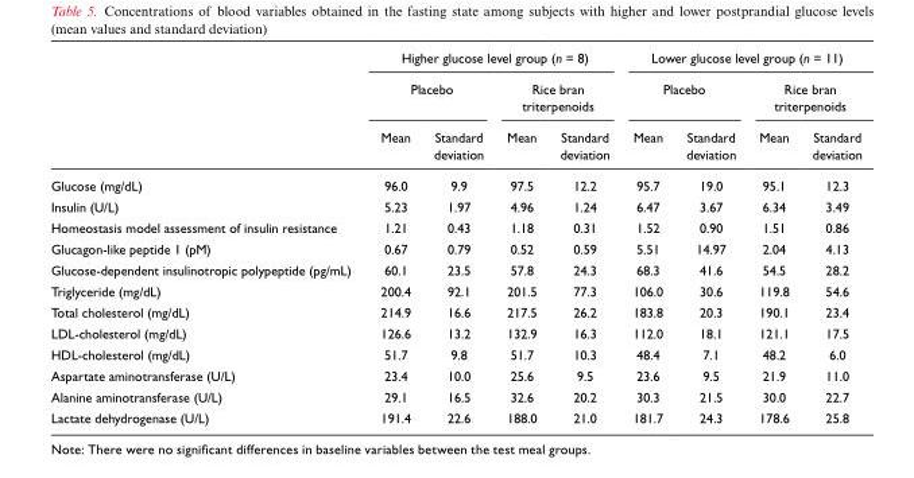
<table><thead><tr><td rowspan="3"></td><td colspan="4">Higher glucose level group (n = 8)</td><td colspan="4">Lower glucose level group (n = 11)</td></tr><tr><td colspan="2">Placebo</td><td colspan="2">Rice bran triterpenoids</td><td colspan="2">Placebo</td><td colspan="2">Rice bran triterpenoids</td></tr><tr><td>Mean</td><td>Standard deviation</td><td>Mean</td><td>Standard deviation</td><td>Mean</td><td>Standard deviation</td><td>Mean</td><td>Standard deviation</td></tr></thead><tbody><tr><td>Glucose (mg/dL)</td><td>96.0</td><td>9.9</td><td>97.5</td><td>12.2</td><td>95.7</td><td>19.0</td><td>95.1</td><td>12.3</td></tr><tr><td>Insulin (U/L)</td><td>5.23</td><td>1.97</td><td>4.96</td><td>1.24</td><td>6.47</td><td>3.67</td><td>6.34</td><td>3.49</td></tr><tr><td>Homeostasis model assessment of insulin resistance</td><td>1.21</td><td>0.43</td><td>1.18</td><td>0.31</td><td>1.52</td><td>0.90</td><td>1.51</td><td>0.86</td></tr><tr><td>Glucagon-like peptide 1 (pM)</td><td>0.67</td><td>0.79</td><td>0.52</td><td>0.59</td><td>5.51</td><td>14.97</td><td>2.04</td><td>4.13</td></tr><tr><td>Glucose-dependent insulinotropic polypeptide (pg/mL)</td><td>60.1</td><td>23.5</td><td>57.8</td><td>24.3</td><td>68.3</td><td>41.6</td><td>54.5</td><td>28.2</td></tr><tr><td>Triglyceride (mg/dL)</td><td>200.4</td><td>92.1</td><td>201.5</td><td>77.3</td><td>106.0</td><td>30.6</td><td>119.8</td><td>54.6</td></tr><tr><td>Total cholesterol (mg/dL)</td><td>214.9</td><td>16.6</td><td>217.5</td><td>26.2</td><td>183.8</td><td>20.3</td><td>190.1</td><td>23.4</td></tr><tr><td>LDL-cholesterol (mg/dL)</td><td>126.6</td><td>13.2</td><td>132.9</td><td>16.3</td><td>112.0</td><td>18.1</td><td>121.1</td><td>17.5</td></tr><tr><td>HDL-cholesterol (mg/dL)</td><td>51.7</td><td>9.8</td><td>51.7</td><td>10.3</td><td>48.4</td><td>7.1</td><td>48.2</td><td>6.0</td></tr><tr><td>Aspartate aminotransferase (U/L)</td><td>23.4</td><td>10.0</td><td>25.6</td><td>9.5</td><td>23.6</td><td>9.5</td><td>21.9</td><td>11.0</td></tr><tr><td>Alanine aminotransferase (U/L)</td><td>29.1</td><td>16.5</td><td>32.6</td><td>20.2</td><td>30.3</td><td>21.5</td><td>30.0</td><td>22.7</td></tr><tr><td>Lactate dehydrogenase (U/L)</td><td>191.4</td><td>22.6</td><td>188.0</td><td>21.0</td><td>181.7</td><td>24.3</td><td>178.6</td><td>25.8</td></tr></tbody></table>